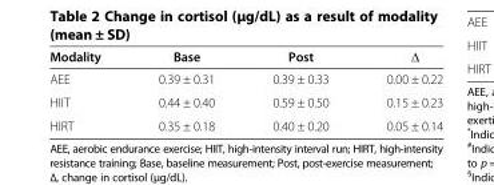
<table><thead><tr><td>Modality</td><td>Base</td><td>Post</td><td>Δ</td></tr></thead><tbody><tr><td>AEE</td><td>0.39 ± 0.31</td><td>0.39 ± 0.33</td><td>0.00 ± 0.22</td></tr><tr><td>HIIT</td><td>0.44 ± 0.40</td><td>0.59 ± 0.50</td><td>0.15 ± 0.23</td></tr><tr><td>HIRT</td><td>0.35 ± 0.18</td><td>0.40 ± 0.20</td><td>0.05 ± 0.14</td></tr></tbody></table>